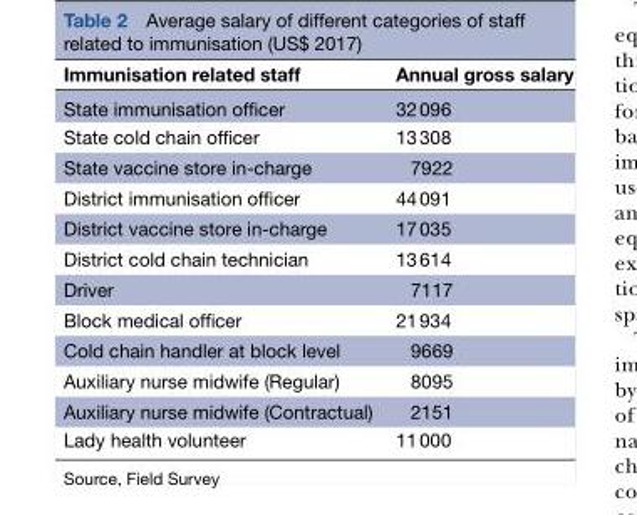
<table><thead><tr><td>Immunisation related staff</td><td>Annual gross salary</td></tr></thead><tbody><tr><td>State immunisation officer</td><td>32 096</td></tr><tr><td>State cold chain officer</td><td>13 308</td></tr><tr><td>State vaccine store in-charge</td><td>7922</td></tr><tr><td>District immunisation officer</td><td>44 091</td></tr><tr><td>District vaccine store in-charge</td><td>17 035</td></tr><tr><td>District cold chain technician</td><td>13 614</td></tr><tr><td>Driver</td><td>7117</td></tr><tr><td>Block medical officer</td><td>21 934</td></tr><tr><td>Cold chain handler at block level</td><td>9669</td></tr><tr><td>Auxiliary nurse midwife (Regular)</td><td>8095</td></tr><tr><td>Auxiliary nurse midwife (Contractual)</td><td>2151</td></tr><tr><td>Lady health volunteer</td><td>11 000</td></tr></tbody></table>